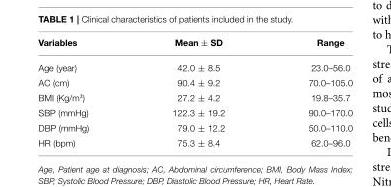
<table><thead><tr><td>Variables</td><td>Mean ± SD</td><td>Range</td></tr></thead><tbody><tr><td>Age (year)</td><td>42.0 ± 8.5</td><td>23.0–56.0</td></tr><tr><td>AC (cm)</td><td>90.4 ± 9.2</td><td>70.0–105.0</td></tr><tr><td>BMI (Kg/m²)</td><td>27.2 ± 4.2</td><td>19.8–35.7</td></tr><tr><td>SBP (mmHg)</td><td>122.3 ± 19.2</td><td>90.0–170.0</td></tr><tr><td>DBP (mmHg)</td><td>79.0 ± 12.2</td><td>50.0–110.0</td></tr><tr><td>HR (bpm)</td><td>75.3 ± 8.4</td><td>62.0–96.0</td></tr></tbody></table>